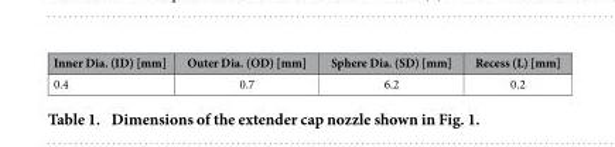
<table><thead><tr><td>Inner Dia. (ID) [mm]</td><td>Outer Dia. (OD) [mm]</td><td>Sphere Dia. (SD) [mm]</td><td>Recess (L) [mm]</td></tr></thead><tbody><tr><td>0.4</td><td>0.7</td><td>6.2</td><td>0.2</td></tr></tbody></table>